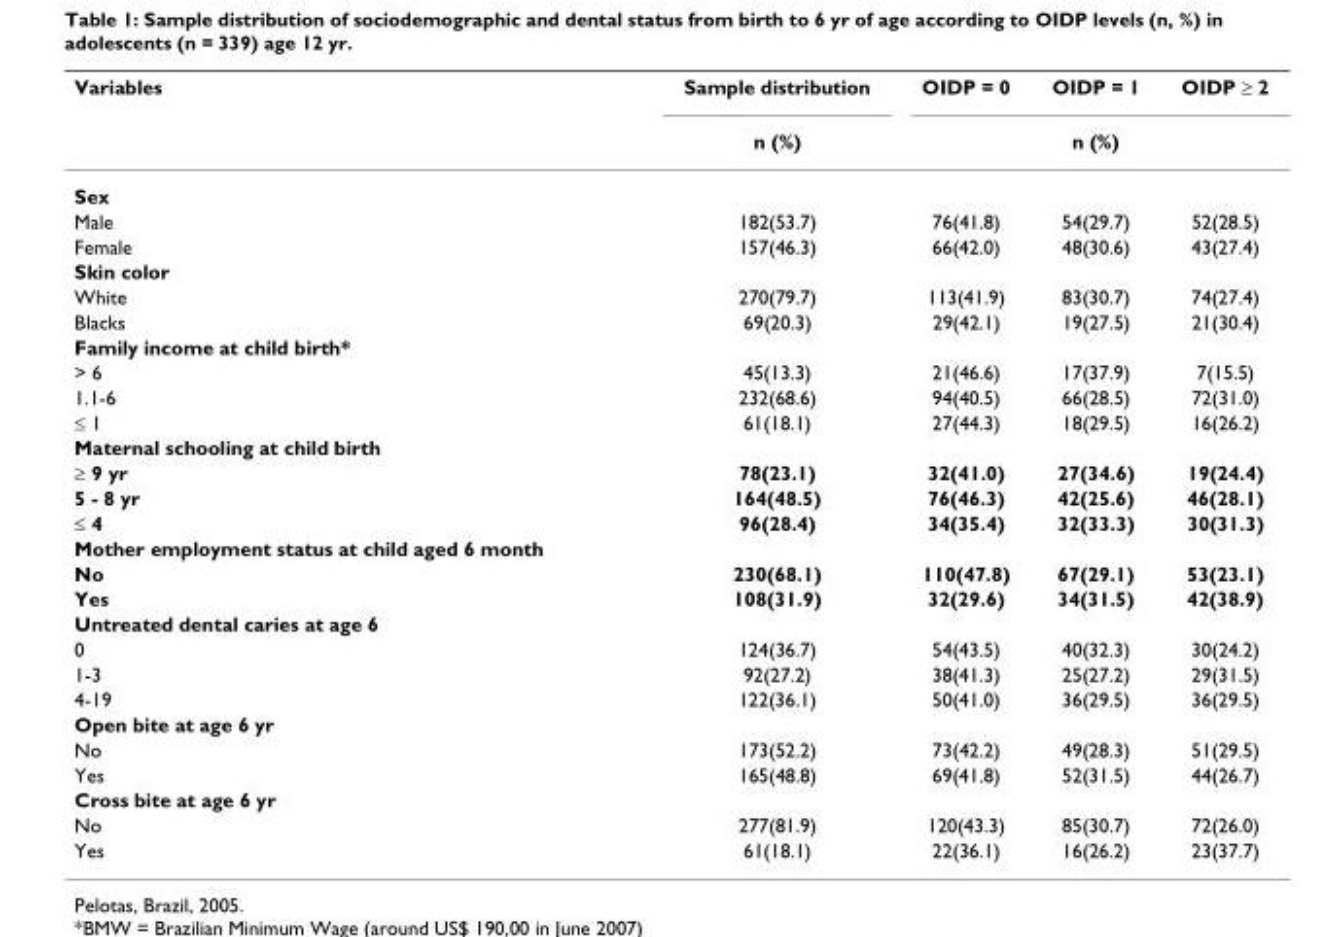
<table><thead><tr><td rowspan="2">Variables</td><td rowspan="2">Sample distribution n (%)</td><td>OIDP = 0</td><td>OIDP = 1</td><td>OIDP ≥ 2</td></tr><tr><td colspan="3">n (%)</td></tr></thead><tbody><tr><td colspan="5">Sex</td></tr><tr><td>Male</td><td>182(53.7)</td><td>76(41.8)</td><td>54(29.7)</td><td>52(28.5)</td></tr><tr><td>Female</td><td>157(46.3)</td><td>66(42.0)</td><td>48(30.6)</td><td>43(27.4)</td></tr><tr><td colspan="5">Skin color</td></tr><tr><td>White</td><td>270(79.7)</td><td>113(41.9)</td><td>83(30.7)</td><td>74(27.4)</td></tr><tr><td>Blacks</td><td>69(20.3)</td><td>29(42.1)</td><td>19(27.5)</td><td>21(30.4)</td></tr><tr><td colspan="5">Family income at child birth*</td></tr><tr><td>&gt; 6</td><td>45(13.3)</td><td>21(46.6)</td><td>17(37.9)</td><td>7(15.5)</td></tr><tr><td>1.1-6</td><td>232(68.6)</td><td>94(40.5)</td><td>66(28.5)</td><td>72(31.0)</td></tr><tr><td>≤ 1</td><td>61(18.1)</td><td>27(44.3)</td><td>18(29.5)</td><td>16(26.2)</td></tr><tr><td colspan="5">Maternal schooling at child birth</td></tr><tr><td>≥ 9 yr</td><td>78(23.1)</td><td>32(41.0)</td><td>27(34.6)</td><td>19(24.4)</td></tr><tr><td>5 - 8 yr</td><td>164(48.5)</td><td>76(46.3)</td><td>42(25.6)</td><td>46(28.1)</td></tr><tr><td>≤ 4</td><td>96(28.4)</td><td>34(35.4)</td><td>32(33.3)</td><td>30(31.3)</td></tr><tr><td colspan="5">Mother employment status at child aged 6 month</td></tr><tr><td>No</td><td>230(68.1)</td><td>110(47.8)</td><td>67(29.1)</td><td>53(23.1)</td></tr><tr><td>Yes</td><td>108(31.9)</td><td>32(29.6)</td><td>34(31.5)</td><td>42(38.9)</td></tr><tr><td colspan="5">Untreated dental caries at age 6</td></tr><tr><td>0</td><td>124(36.7)</td><td>54(43.5)</td><td>40(32.3)</td><td>30(24.2)</td></tr><tr><td>1-3</td><td>92(27.2)</td><td>38(41.3)</td><td>25(27.2)</td><td>29(31.5)</td></tr><tr><td>4-19</td><td>122(36.1)</td><td>50(41.0)</td><td>36(29.5)</td><td>36(29.5)</td></tr><tr><td colspan="5">Open bite at age 6 yr</td></tr><tr><td>No</td><td>173(52.2)</td><td>73(42.2)</td><td>49(28.3)</td><td>51(29.5)</td></tr><tr><td>Yes</td><td>165(48.8)</td><td>69(41.8)</td><td>52(31.5)</td><td>44(26.7)</td></tr><tr><td colspan="5">Cross bite at age 6 yr</td></tr><tr><td>No</td><td>277(81.9)</td><td>120(43.3)</td><td>85(30.7)</td><td>72(26.0)</td></tr><tr><td>Yes</td><td>61(18.1)</td><td>22(36.1)</td><td>16(26.2)</td><td>23(37.7)</td></tr></tbody></table>